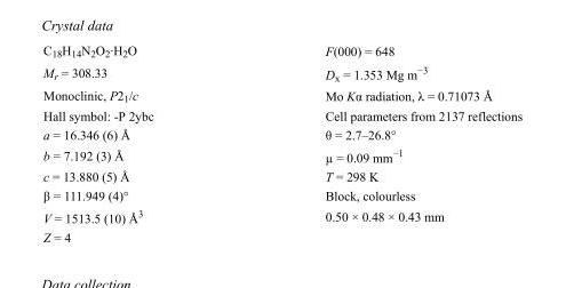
<table><tbody><tr><td>C<sub>18</sub>H<sub>14</sub>N<sub>2</sub>O<sub>2</sub>·H<sub>2</sub>O</td><td>F(000) = 648</td></tr><tr><td>M<sub>r</sub> = 308.33</td><td>D<sub>x</sub> = 1.353 Mg m<sup>−3</sup></td></tr><tr><td>Monoclinic, P2<sub>1</sub>/c</td><td>Mo Kα radiation, λ = 0.71073 Å</td></tr><tr><td>Hall symbol: -P 2ybc</td><td>Cell parameters from 2137 reflections</td></tr><tr><td>a = 16.346 (6) Å</td><td>θ = 2.7–26.8°</td></tr><tr><td>b = 7.192 (3) Å</td><td>µ = 0.09 mm<sup>−1</sup></td></tr><tr><td>c = 13.880 (5) Å</td><td>T = 298 K</td></tr><tr><td>β = 111.949 (4)°</td><td>Block, colourless</td></tr><tr><td>V = 1513.5 (10) Å<sup>3</sup></td><td>0.50 × 0.48 × 0.43 mm</td></tr><tr><td>Z = 4</td><td></td></tr></tbody></table>